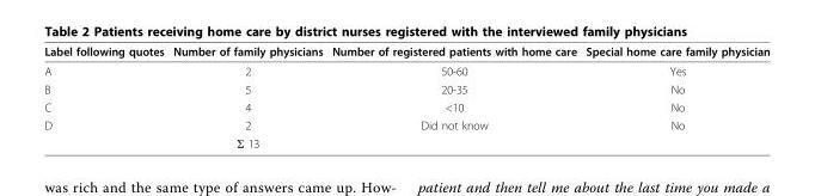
<table><thead><tr><td>Label following quotes</td><td>Number of family physicians</td><td>Number of registered patients with home care</td><td>Special home care family physician</td></tr></thead><tbody><tr><td>A</td><td>2</td><td>50-60</td><td>Yes</td></tr><tr><td>B</td><td>5</td><td>20-35</td><td>No</td></tr><tr><td>C</td><td>4</td><td>&lt;10</td><td>No</td></tr><tr><td rowspan="2">D</td><td>2</td><td>Did not know</td><td>No</td></tr><tr><td>Σ 13</td><td></td><td></td></tr></tbody></table>